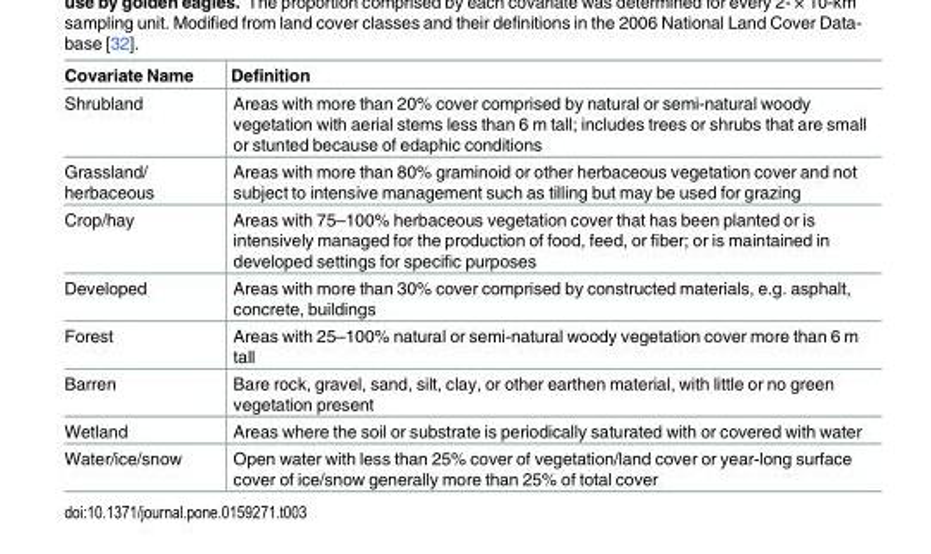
<table><thead><tr><td>Covariate Name</td><td>Definition</td></tr></thead><tbody><tr><td>Shrubland</td><td>Areas with more than 20% cover comprised by natural or semi-natural woody vegetation with aerial stems less than 6 m tall; includes trees or shrubs that are small or stunted because of edaphic conditions</td></tr><tr><td>Grassland/ herbaceous</td><td>Areas with more than 80% graminoid or other herbaceous vegetation cover and not subject to intensive management such as tilling but may be used for grazing</td></tr><tr><td>Crop/hay</td><td>Areas with 75–100% herbaceous vegetation cover that has been planted or is intensively managed for the production of food, feed, or fiber; or is maintained in developed settings for specific purposes</td></tr><tr><td>Developed</td><td>Areas with more than 30% cover comprised by constructed materials, e.g. asphalt, concrete, buildings</td></tr><tr><td>Forest</td><td>Areas with 25–100% natural or semi-natural woody vegetation cover more than 6 m tall</td></tr><tr><td>Barren</td><td>Bare rock, gravel, sand, silt, clay, or other earthen material, with little or no green vegetation present</td></tr><tr><td>Wetland</td><td>Areas where the soil or substrate is periodically saturated with or covered with water</td></tr><tr><td>Water/ice/snow</td><td>Open water with less than 25% cover of vegetation/land cover or year-long surface cover of ice/snow generally more than 25% of total cover</td></tr></tbody></table>